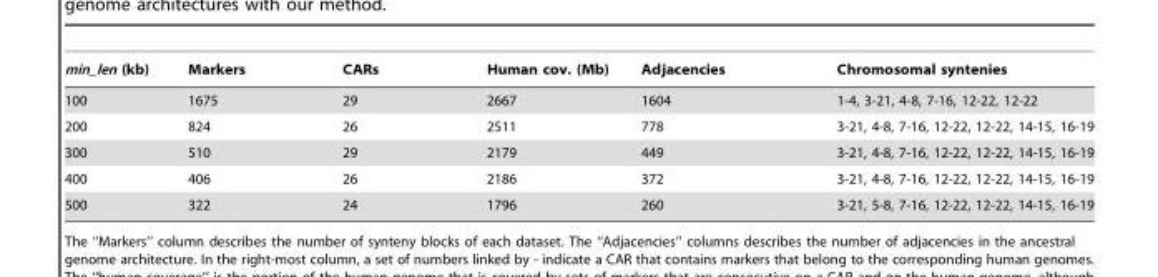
<table><thead><tr><td>min_len (kb)</td><td>Markers</td><td>CARs</td><td>Human cov. (Mb)</td><td>Adjacencies</td><td>Chromosomal syntenies</td></tr></thead><tbody><tr><td>100</td><td>1675</td><td>29</td><td>2667</td><td>1604</td><td>1-4, 3-21, 4-8, 7-16, 12-22, 12-22</td></tr><tr><td>200</td><td>824</td><td>26</td><td>2511</td><td>778</td><td>3-21, 4-8, 7-16, 12-22, 12-22, 14-15, 16-19</td></tr><tr><td>300</td><td>510</td><td>29</td><td>2179</td><td>449</td><td>3-21, 4-8, 7-16, 12-22, 12-22, 14-15, 16-19</td></tr><tr><td>400</td><td>406</td><td>26</td><td>2186</td><td>372</td><td>3-21, 4-8, 7-16, 12-22, 12-22, 14-15, 16-19</td></tr><tr><td>500</td><td>322</td><td>24</td><td>1796</td><td>260</td><td>3-21, 5-8, 7-16, 12-22, 12-22, 14-15, 16-19</td></tr></tbody></table>